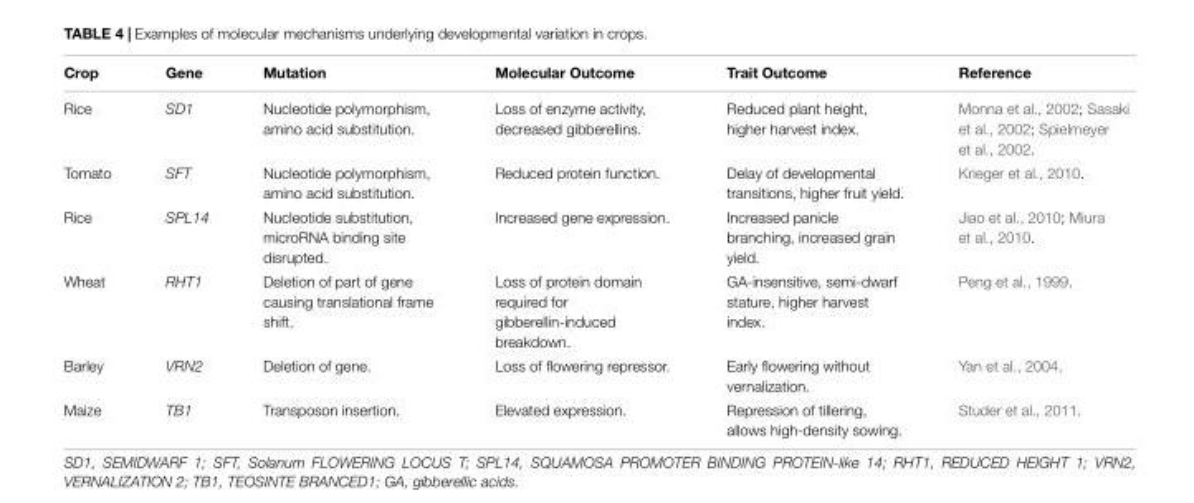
<table><thead><tr><td>Crop</td><td>Gene</td><td>Mutation</td><td>Molecular Outcome</td><td>Trait Outcome</td><td>Reference</td></tr></thead><tbody><tr><td>Rice</td><td>SD1</td><td>Nucleotide polymorphism, amino acid substitution.</td><td>Loss of enzyme activity, decreased gibberellins.</td><td>Reduced plant height, higher harvest index.</td><td>Monna et al., 2002; Sasaki et al., 2002; Spielmeyer et al., 2002.</td></tr><tr><td>Tomato</td><td>SFT</td><td>Nucleotide polymorphism, amino acid substitution.</td><td>Reduced protein function.</td><td>Delay of developmental transitions, higher fruit yield.</td><td>Krieger et al., 2010.</td></tr><tr><td>Rice</td><td>SPL14</td><td>Nucleotide substitution, microRNA binding site disrupted.</td><td>Increased gene expression.</td><td>Increased panicle branching, increased grain yield.</td><td>Jiao et al., 2010; Miura et al., 2010.</td></tr><tr><td>Wheat</td><td>RHT1</td><td>Deletion of part of gene causing translational frame shift.</td><td>Loss of protein domain required for gibberellin-induced breakdown.</td><td>GA-insensitive, semi-dwarf stature, higher harvest index.</td><td>Peng et al., 1999.</td></tr><tr><td>Barley</td><td>VRN2</td><td>Deletion of gene.</td><td>Loss of flowering repressor.</td><td>Early flowering without vernalization.</td><td>Yan et al., 2004.</td></tr><tr><td>Maize</td><td>TB1</td><td>Transposon insertion.</td><td>Elevated expression.</td><td>Repression of tillering, allows high-density sowing.</td><td>Studer et al., 2011.</td></tr></tbody></table>